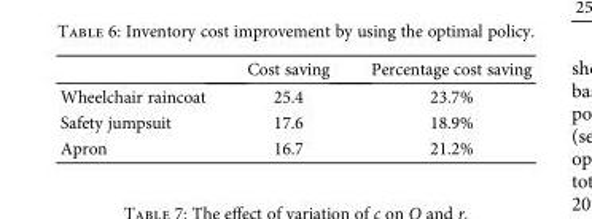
<table><thead><tr><td></td><td>Cost saving</td><td>Percentage cost saving</td></tr></thead><tbody><tr><td>Wheelchair raincoat</td><td>25.4</td><td>23.7%</td></tr><tr><td>Safety jumpsuit</td><td>17.6</td><td>18.9%</td></tr><tr><td>Apron</td><td>16.7</td><td>21.2%</td></tr></tbody></table>